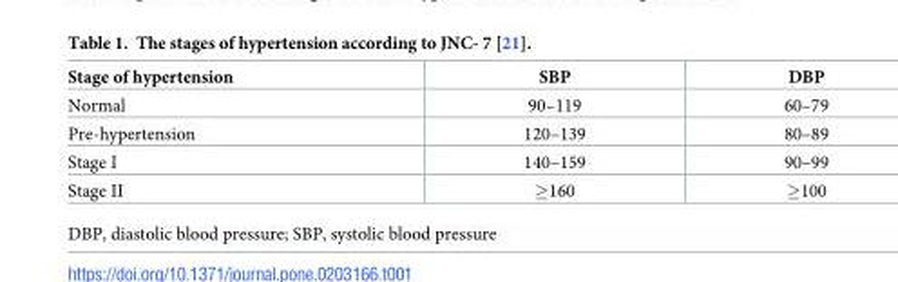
<table><thead><tr><td>Stage of hypertension</td><td>SBP</td><td>DBP</td></tr></thead><tbody><tr><td>Normal</td><td>90–119</td><td>60–79</td></tr><tr><td>Pre-hypertension</td><td>120–139</td><td>80–89</td></tr><tr><td>Stage I</td><td>140–159</td><td>90–99</td></tr><tr><td>Stage II</td><td>≥160</td><td>≥100</td></tr></tbody></table>